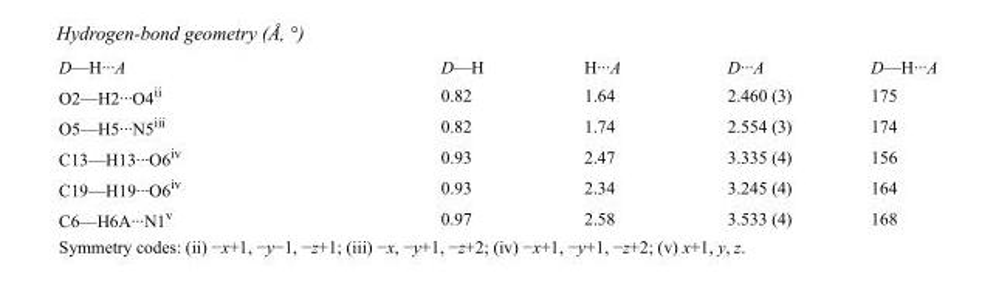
<table><tbody><tr><td>D—H···A</td><td>D—H</td><td>H···A</td><td>D···A</td><td>D—H···A</td></tr><tr><td>O2—H2···O4<sup>ii</sup></td><td>0.82</td><td>1.64</td><td>2.460 (3)</td><td>175</td></tr><tr><td>O5—H5···N5<sup>iii</sup></td><td>0.82</td><td>1.74</td><td>2.554 (3)</td><td>174</td></tr><tr><td>C13—H13···O6<sup>iv</sup></td><td>0.93</td><td>2.47</td><td>3.335 (4)</td><td>156</td></tr><tr><td>C19—H19···O6<sup>iv</sup></td><td>0.93</td><td>2.34</td><td>3.245 (4)</td><td>164</td></tr><tr><td>C6—H6A···N1<sup>v</sup></td><td>0.97</td><td>2.58</td><td>3.533 (4)</td><td>168</td></tr></tbody></table>